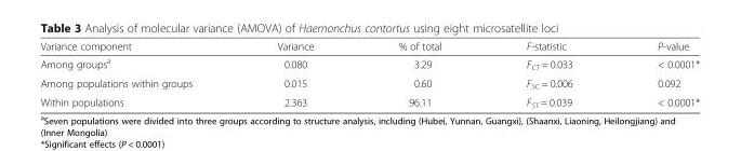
<table><thead><tr><td>Variance component</td><td>Variance</td><td>% of total</td><td>F-statistic</td><td>P-value</td></tr></thead><tbody><tr><td>Among groups<sup>a</sup></td><td>0.080</td><td>3.29</td><td>F<sub>CT</sub> = 0.033</td><td>&lt; 0.0001*</td></tr><tr><td>Among populations within groups</td><td>0.015</td><td>0.60</td><td>F<sub>SC</sub> = 0.006</td><td>0.092</td></tr><tr><td>Within populations</td><td>2.363</td><td>96.11</td><td>F<sub>ST</sub> = 0.039</td><td>&lt; 0.0001*</td></tr></tbody></table>